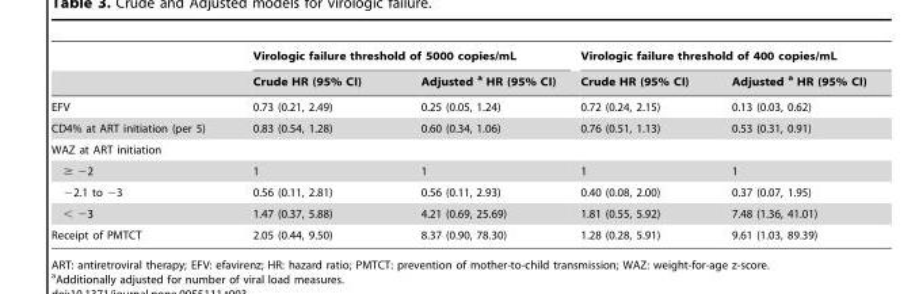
<table><thead><tr><td rowspan="2"></td><td colspan="2">Virologic failure threshold of 5000 copies/mL</td><td colspan="2">Virologic failure threshold of 400 copies/mL</td></tr><tr><td>Crude HR (95% CI)</td><td>Adjusted a HR (95% CI)</td><td>Crude HR (95% CI)</td><td>Adjusted a HR (95% CI)</td></tr></thead><tbody><tr><td>EFV</td><td>0.73 (0.21, 2.49)</td><td>0.25 (0.05, 1.24)</td><td>0.72 (0.24, 2.15)</td><td>0.13 (0.03, 0.62)</td></tr><tr><td>CD4% at ART initiation (per 5)</td><td>0.83 (0.54, 1.28)</td><td>0.60 (0.34, 1.06)</td><td>0.76 (0.51, 1.13)</td><td>0.53 (0.31, 0.91)</td></tr><tr><td colspan="5">WAZ at ART initiation</td></tr><tr><td>≥ −2</td><td>1</td><td>1</td><td>1</td><td>1</td></tr><tr><td>−2.1 to −3</td><td>0.56 (0.11, 2.81)</td><td>0.56 (0.11, 2.93)</td><td>0.40 (0.08, 2.00)</td><td>0.37 (0.07, 1.95)</td></tr><tr><td>&lt; −3</td><td>1.47 (0.37, 5.88)</td><td>4.21 (0.69, 25.69)</td><td>1.81 (0.55, 5.92)</td><td>7.48 (1.36, 41.01)</td></tr><tr><td>Receipt of PMTCT</td><td>2.05 (0.44, 9.50)</td><td>8.37 (0.90, 78.30)</td><td>1.28 (0.28, 5.91)</td><td>9.61 (1.03, 89.39)</td></tr></tbody></table>